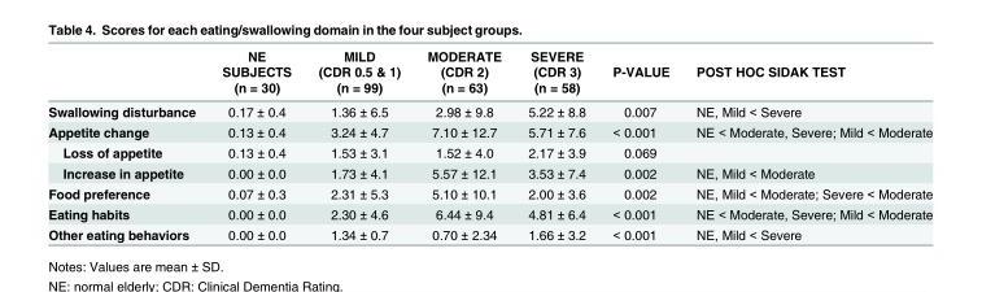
<table><thead><tr><td rowspan="3"></td><td rowspan="3">NE SUBJECTS (n = 30)</td><td rowspan="3">MILD (CDR 0.5 &amp; 1) (n = 99)</td><td rowspan="3">MODERATE (CDR 2) (n = 63)</td><td rowspan="3">SEVERE (CDR 3) (n = 58)</td><td rowspan="3">P-VALUE</td><td rowspan="3">POST HOC SIDAK TEST</td></tr><tr></tr><tr></tr></thead><tbody><tr><td>Swallowing disturbance</td><td>0.17 ± 0.4</td><td>1.36 ± 6.5</td><td>2.98 ± 9.8</td><td>5.22 ± 8.8</td><td>0.007</td><td>NE, Mild &lt; Severe</td></tr><tr><td>Appetite change</td><td>0.13 ± 0.4</td><td>3.24 ± 4.7</td><td>7.10 ± 12.7</td><td>5.71 ± 7.6</td><td>&lt; 0.001</td><td>NE &lt; Moderate, Severe; Mild &lt; Moderate</td></tr><tr><td>Loss of appetite</td><td>0.13 ± 0.4</td><td>1.53 ± 3.1</td><td>1.52 ± 4.0</td><td>2.17 ± 3.9</td><td>0.069</td><td></td></tr><tr><td>Increase in appetite</td><td>0.00 ± 0.0</td><td>1.73 ± 4.1</td><td>5.57 ± 12.1</td><td>3.53 ± 7.4</td><td>0.002</td><td>NE, Mild &lt; Moderate</td></tr><tr><td>Food preference</td><td>0.07 ± 0.3</td><td>2.31 ± 5.3</td><td>5.10 ± 10.1</td><td>2.00 ± 3.6</td><td>0.002</td><td>NE, Mild &lt; Moderate; Severe &lt; Moderate</td></tr><tr><td>Eating habits</td><td>0.00 ± 0.0</td><td>2.30 ± 4.6</td><td>6.44 ± 9.4</td><td>4.81 ± 6.4</td><td>&lt; 0.001</td><td>NE &lt; Moderate, Severe; Mild &lt; Moderate</td></tr><tr><td>Other eating behaviors</td><td>0.00 ± 0.0</td><td>1.34 ± 0.7</td><td>0.70 ± 2.34</td><td>1.66 ± 3.2</td><td>&lt; 0.001</td><td>NE, Mild &lt; Severe</td></tr></tbody></table>